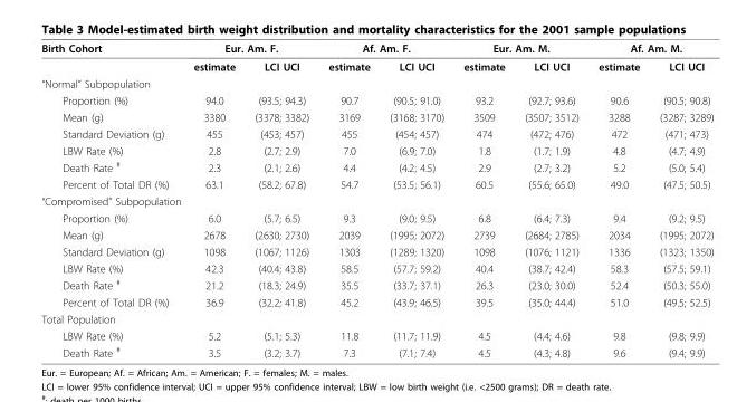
<table><tbody><tr><td rowspan="2">Birth Cohort</td><td colspan="2">Eur. Am. F.</td><td colspan="2">Af. Am. F.</td><td colspan="2">Eur. Am. M.</td><td colspan="2">Af. Am. M.</td></tr><tr><td>estimate</td><td>LCI UCI</td><td>estimate</td><td>LCI UCI</td><td>estimate</td><td>LCI UCI</td><td>estimate</td><td>LCI UCI</td></tr><tr><td colspan="9">“Normal” Subpopulation</td></tr><tr><td>Proportion (%)</td><td>94.0</td><td>(93.5; 94.3)</td><td>90.7</td><td>(90.5; 91.0)</td><td>93.2</td><td>(92.7; 93.6)</td><td>90.6</td><td>(90.5; 90.8)</td></tr><tr><td>Mean (g)</td><td>3380</td><td>(3378; 3382)</td><td>3169</td><td>(3168; 3170)</td><td>3509</td><td>(3507; 3512)</td><td>3288</td><td>(3287; 3289)</td></tr><tr><td>Standard Deviation (g)</td><td>455</td><td>(453; 457)</td><td>455</td><td>(454; 457)</td><td>474</td><td>(472; 476)</td><td>472</td><td>(471; 473)</td></tr><tr><td>LBW Rate (%)</td><td>2.8</td><td>(2.7; 2.9)</td><td>7.0</td><td>(6.9; 7.0)</td><td>1.8</td><td>(1.7; 1.9)</td><td>4.8</td><td>(4.7; 4.9)</td></tr><tr><td>Death Rate <sup>#</sup></td><td>2.3</td><td>(2.1; 2.6)</td><td>4.4</td><td>(4.2; 4.5)</td><td>2.9</td><td>(2.7; 3.2)</td><td>5.2</td><td>(5.0; 5.4)</td></tr><tr><td>Percent of Total DR (%)</td><td>63.1</td><td>(58.2; 67.8)</td><td>54.7</td><td>(53.5; 56.1)</td><td>60.5</td><td>(55.6; 65.0)</td><td>49.0</td><td>(47.5; 50.5)</td></tr><tr><td colspan="9">“Compromised” Subpopulation</td></tr><tr><td>Proportion (%)</td><td>6.0</td><td>(5.7; 6.5)</td><td>9.3</td><td>(9.0; 9.5)</td><td>6.8</td><td>(6.4; 7.3)</td><td>9.4</td><td>(9.2; 9.5)</td></tr><tr><td>Mean (g)</td><td>2678</td><td>(2630; 2730)</td><td>2039</td><td>(1995; 2072)</td><td>2739</td><td>(2684; 2785)</td><td>2034</td><td>(1995; 2072)</td></tr><tr><td>Standard Deviation (g)</td><td>1098</td><td>(1067; 1126)</td><td>1303</td><td>(1289; 1320)</td><td>1098</td><td>(1076; 1121)</td><td>1336</td><td>(1323; 1350)</td></tr><tr><td>LBW Rate (%)</td><td>42.3</td><td>(40.4; 43.8)</td><td>58.5</td><td>(57.7; 59.2)</td><td>40.4</td><td>(38.7; 42.4)</td><td>58.3</td><td>(57.5; 59.1)</td></tr><tr><td>Death Rate <sup>#</sup></td><td>21.2</td><td>(18.3; 24.9)</td><td>35.5</td><td>(33.7; 37.1)</td><td>26.3</td><td>(23.0; 30.0)</td><td>52.4</td><td>(50.3; 55.0)</td></tr><tr><td>Percent of Total DR (%)</td><td>36.9</td><td>(32.2; 41.8)</td><td>45.2</td><td>(43.9; 46.5)</td><td>39.5</td><td>(35.0; 44.4)</td><td>51.0</td><td>(49.5; 52.5)</td></tr><tr><td colspan="9">Total Population</td></tr><tr><td>LBW Rate (%)</td><td>5.2</td><td>(5.1; 5.3)</td><td>11.8</td><td>(11.7; 11.9)</td><td>4.5</td><td>(4.4; 4.6)</td><td>9.8</td><td>(9.8; 9.9)</td></tr><tr><td>Death Rate <sup>#</sup></td><td>3.5</td><td>(3.2; 3.7)</td><td>7.3</td><td>(7.1; 7.4)</td><td>4.5</td><td>(4.3; 4.8)</td><td>9.6</td><td>(9.4; 9.9)</td></tr></tbody></table>